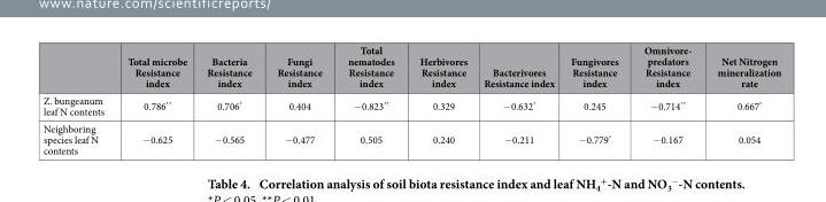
<table><thead><tr><td></td><td>Total microbe Resistance index</td><td>Bacteria Resistance index</td><td>Fungi Resistance index</td><td>Total nematodes Resistance index</td><td>Herbivores Resistance index</td><td>Bacterivores Resistance index</td><td>Fungivores Resistance index</td><td>Omnivore- predators Resistance index</td><td>Net Nitrogen mineralization rate</td></tr></thead><tbody><tr><td>Z. bungeanum leaf N contents</td><td>0.786**</td><td>0.706*</td><td>0.404</td><td>− 0.823**</td><td>0.329</td><td>− 0.632*</td><td>0.245</td><td>− 0.714**</td><td>0.667*</td></tr><tr><td>Neighboring species leaf N contents</td><td>− 0.625</td><td>− 0.565</td><td>− 0.477</td><td>0.505</td><td>0.240</td><td>− 0.211</td><td>− 0.779*</td><td>− 0.167</td><td>0.054</td></tr></tbody></table>